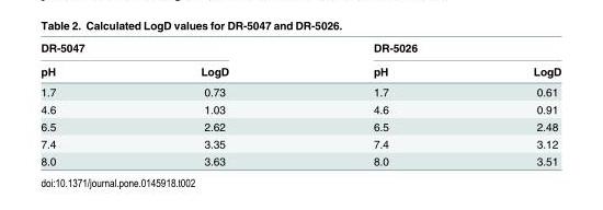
<table><thead><tr><td colspan="2">DR-5047</td><td colspan="2">DR-5026</td></tr><tr><td>pH</td><td>LogD</td><td>pH</td><td>LogD</td></tr></thead><tbody><tr><td>1.7</td><td>0.73</td><td>1.7</td><td>0.61</td></tr><tr><td>4.6</td><td>1.03</td><td>4.6</td><td>0.91</td></tr><tr><td>6.5</td><td>2.62</td><td>6.5</td><td>2.48</td></tr><tr><td>7.4</td><td>3.35</td><td>7.4</td><td>3.12</td></tr><tr><td>8.0</td><td>3.63</td><td>8.0</td><td>3.51</td></tr></tbody></table>